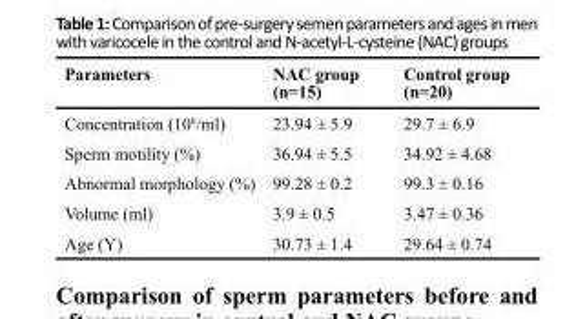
<table><thead><tr><td>Parameters</td><td>NAC group (n=15)</td><td>Control group (n=20)</td></tr></thead><tbody><tr><td>Concentration (106/ml)</td><td>23.94 ± 5.9</td><td>29.7 ± 6.9</td></tr><tr><td>Sperm motility (%)</td><td>36.94 ± 5.5</td><td>34.92 ± 4.68</td></tr><tr><td>Abnormal morphology (%)</td><td>99.28 ± 0.2</td><td>99.3 ± 0.16</td></tr><tr><td>Volume (ml)</td><td>3.9 ± 0.5</td><td>3.47 ± 0.36</td></tr><tr><td>Age (Y)</td><td>30.73 ± 1.4</td><td>29.64 ± 0.74</td></tr></tbody></table>